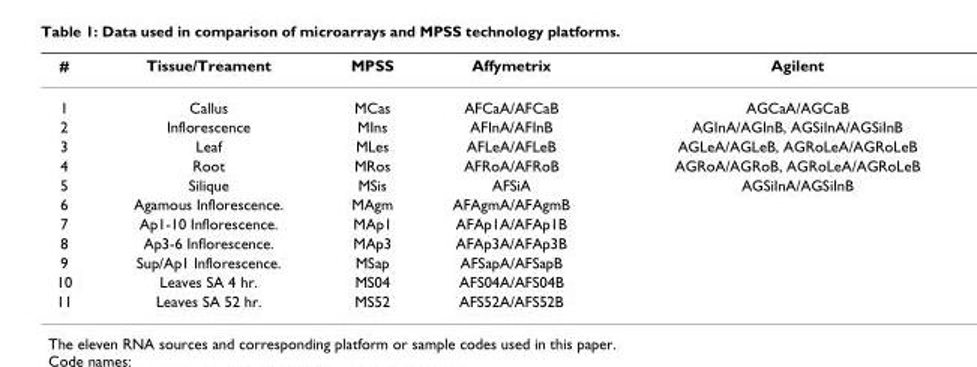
<table><thead><tr><td>#</td><td>Tissue/Treament</td><td>MPSS</td><td>Affymetrix</td><td>Agilent</td></tr></thead><tbody><tr><td>1</td><td>Callus</td><td>MCas</td><td>AFCaA/AFCaB</td><td>AGCaA/AGCaB</td></tr><tr><td>2</td><td>Inflorescence</td><td>MIns</td><td>AFInA/AFInB</td><td>AGInA/AGInB, AGSiInA/AGSiInB</td></tr><tr><td>3</td><td>Leaf</td><td>MLes</td><td>AFLeA/AFLeB</td><td>AGLeA/AGLeB, AGRoLeA/AGRoLeB</td></tr><tr><td>4</td><td>Root</td><td>MRos</td><td>AFRoA/AFRoB</td><td>AGRoA/AGRoB, AGRoLeA/AGRoLeB</td></tr><tr><td>5</td><td>Silique</td><td>MSis</td><td>AFSiA</td><td>AGSiInA/AGSiInB</td></tr><tr><td>6</td><td>Agamous Inflorescence.</td><td>MAgm</td><td>AFAgmA/AFAgmB</td><td></td></tr><tr><td>7</td><td>Ap1-10 Inflorescence.</td><td>MAp1</td><td>AFAp1A/AFAp1B</td><td></td></tr><tr><td>8</td><td>Ap3-6 Inflorescence.</td><td>MAp3</td><td>AFAp3A/AFAp3B</td><td></td></tr><tr><td>9</td><td>Sup/Ap1 Inflorescence.</td><td>MSap</td><td>AFSapA/AFSapB</td><td></td></tr><tr><td>10</td><td>Leaves SA 4 hr.</td><td>MS04</td><td>AFS04A/AFS04B</td><td></td></tr><tr><td>11</td><td>Leaves SA 52 hr.</td><td>MS52</td><td>AFS52A/AFS52B</td><td></td></tr></tbody></table>